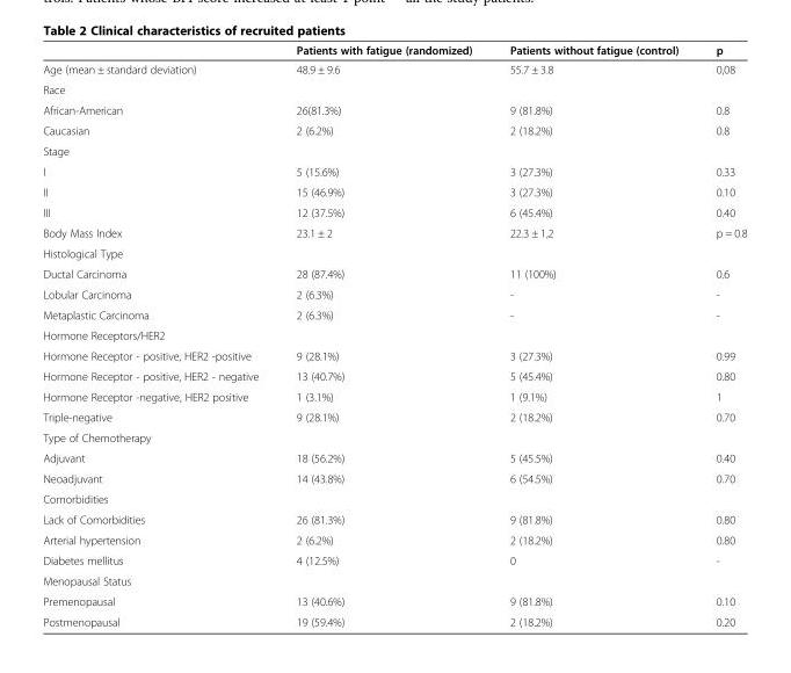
<table><thead><tr><td></td><td>Patients with fatigue (randomized)</td><td>Patients without fatigue (control)</td><td>p</td></tr></thead><tbody><tr><td>Age (mean ± standard deviation)</td><td>48.9 ± 9.6</td><td>55.7 ± 3.8</td><td>0,08</td></tr><tr><td colspan="4">Race</td></tr><tr><td>African-American</td><td>26(81.3%)</td><td>9 (81.8%)</td><td>0.8</td></tr><tr><td>Caucasian</td><td>2 (6.2%)</td><td>2 (18.2%)</td><td>0.8</td></tr><tr><td colspan="4">Stage</td></tr><tr><td>I</td><td>5 (15.6%)</td><td>3 (27.3%)</td><td>0.33</td></tr><tr><td>II</td><td>15 (46.9%)</td><td>3 (27.3%)</td><td>0.10</td></tr><tr><td>III</td><td>12 (37.5%)</td><td>6 (45.4%)</td><td>0.40</td></tr><tr><td>Body Mass Index</td><td>23.1 ± 2</td><td>22.3 ± 1,2</td><td>p = 0.8</td></tr><tr><td colspan="4">Histological Type</td></tr><tr><td>Ductal Carcinoma</td><td>28 (87.4%)</td><td>11 (100%)</td><td>0.6</td></tr><tr><td>Lobular Carcinoma</td><td>2 (6.3%)</td><td>-</td><td>-</td></tr><tr><td>Metaplastic Carcinoma</td><td>2 (6.3%)</td><td>-</td><td>-</td></tr><tr><td colspan="4">Hormone Receptors/HER2</td></tr><tr><td>Hormone Receptor - positive, HER2 -positive</td><td>9 (28.1%)</td><td>3 (27.3%)</td><td>0.99</td></tr><tr><td>Hormone Receptor - positive, HER2 - negative</td><td>13 (40.7%)</td><td>5 (45.4%)</td><td>0.80</td></tr><tr><td>Hormone Receptor -negative, HER2 positive</td><td>1 (3.1%)</td><td>1 (9.1%)</td><td>1</td></tr><tr><td>Triple-negative</td><td>9 (28.1%)</td><td>2 (18.2%)</td><td>0.70</td></tr><tr><td colspan="4">Type of Chemotherapy</td></tr><tr><td>Adjuvant</td><td>18 (56.2%)</td><td>5 (45.5%)</td><td>0.40</td></tr><tr><td>Neoadjuvant</td><td>14 (43.8%)</td><td>6 (54.5%)</td><td>0.70</td></tr><tr><td colspan="4">Comorbidities</td></tr><tr><td>Lack of Comorbidities</td><td>26 (81.3%)</td><td>9 (81.8%)</td><td>0.80</td></tr><tr><td>Arterial hypertension</td><td>2 (6.2%)</td><td>2 (18.2%)</td><td>0.80</td></tr><tr><td>Diabetes mellitus</td><td>4 (12.5%)</td><td>0</td><td>-</td></tr><tr><td colspan="4">Menopausal Status</td></tr><tr><td>Premenopausal</td><td>13 (40.6%)</td><td>9 (81.8%)</td><td>0.10</td></tr><tr><td>Postmenopausal</td><td>19 (59.4%)</td><td>2 (18.2%)</td><td>0.20</td></tr></tbody></table>